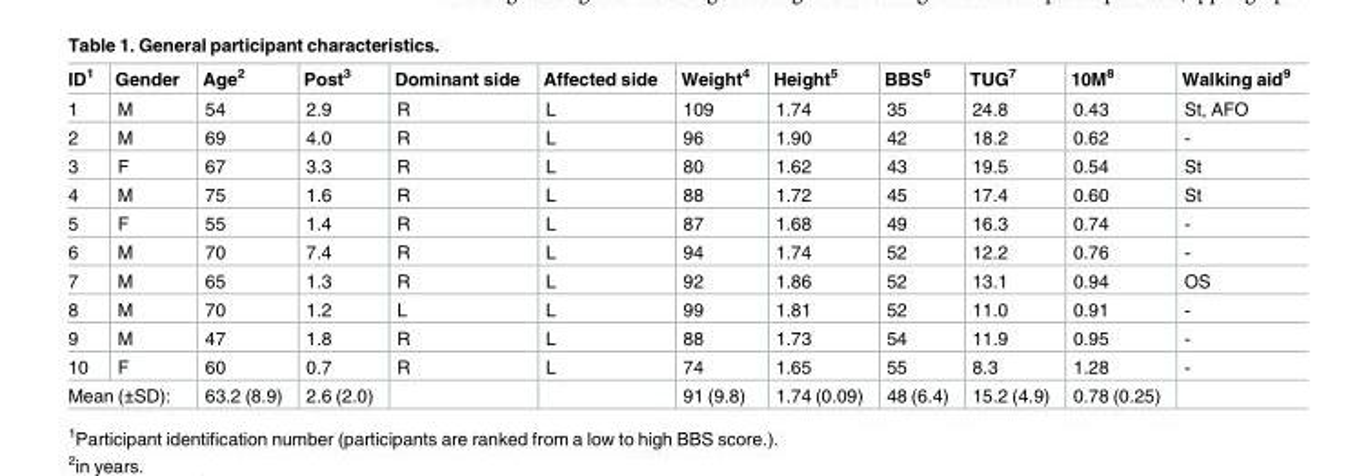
<table><thead><tr><td>ID<sup>1</sup></td><td>Gender</td><td>Age<sup>2</sup></td><td>Post<sup>3</sup></td><td>Dominant side</td><td>Affected side</td><td>Weight<sup>4</sup></td><td>Height<sup>5</sup></td><td>BBS<sup>6</sup></td><td>TUG<sup>7</sup></td><td>10M<sup>8</sup></td><td>Walking aid<sup>9</sup></td></tr></thead><tbody><tr><td>1</td><td>M</td><td>54</td><td>2.9</td><td>R</td><td>L</td><td>109</td><td>1.74</td><td>35</td><td>24.8</td><td>0.43</td><td>St, AFO</td></tr><tr><td>2</td><td>M</td><td>69</td><td>4.0</td><td>R</td><td>L</td><td>96</td><td>1.90</td><td>42</td><td>18.2</td><td>0.62</td><td>-</td></tr><tr><td>3</td><td>F</td><td>67</td><td>3.3</td><td>R</td><td>L</td><td>80</td><td>1.62</td><td>43</td><td>19.5</td><td>0.54</td><td>St</td></tr><tr><td>4</td><td>M</td><td>75</td><td>1.6</td><td>R</td><td>L</td><td>88</td><td>1.72</td><td>45</td><td>17.4</td><td>0.60</td><td>St</td></tr><tr><td>5</td><td>F</td><td>55</td><td>1.4</td><td>R</td><td>L</td><td>87</td><td>1.68</td><td>49</td><td>16.3</td><td>0.74</td><td>-</td></tr><tr><td>6</td><td>M</td><td>70</td><td>7.4</td><td>R</td><td>L</td><td>94</td><td>1.74</td><td>52</td><td>12.2</td><td>0.76</td><td>-</td></tr><tr><td>7</td><td>M</td><td>65</td><td>1.3</td><td>R</td><td>L</td><td>92</td><td>1.86</td><td>52</td><td>13.1</td><td>0.94</td><td>OS</td></tr><tr><td>8</td><td>M</td><td>70</td><td>1.2</td><td>L</td><td>L</td><td>99</td><td>1.81</td><td>52</td><td>11.0</td><td>0.91</td><td>-</td></tr><tr><td>9</td><td>M</td><td>47</td><td>1.8</td><td>R</td><td>L</td><td>88</td><td>1.73</td><td>54</td><td>11.9</td><td>0.95</td><td>-</td></tr><tr><td>10</td><td>F</td><td>60</td><td>0.7</td><td>R</td><td>L</td><td>74</td><td>1.65</td><td>55</td><td>8.3</td><td>1.28</td><td>-</td></tr><tr><td colspan="2">Mean (±SD):</td><td>63.2 (8.9)</td><td>2.6 (2.0)</td><td></td><td></td><td>91 (9.8)</td><td>1.74 (0.09)</td><td>48 (6.4)</td><td>15.2 (4.9)</td><td>0.78 (0.25)</td><td></td></tr></tbody></table>